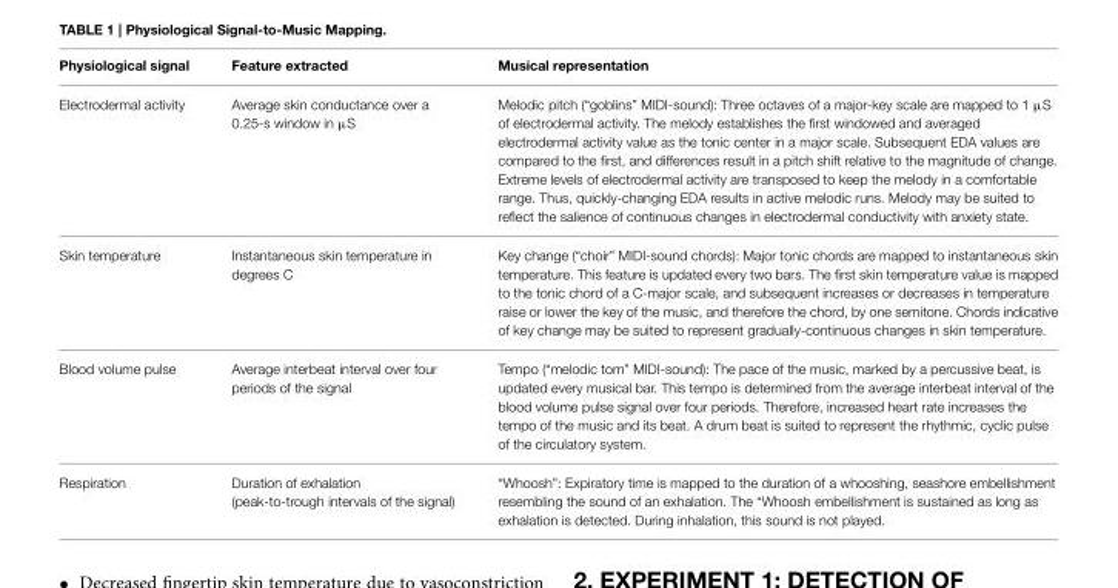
<table><thead><tr><td>Physiological signal</td><td>Feature extracted</td><td>Musical representation</td></tr></thead><tbody><tr><td>Electrodermal activity</td><td>Average skin conductance over a 0.25-s window in µS</td><td>Melodic pitch (“goblins” MIDI-sound): Three octaves of a major-key scale are mapped to 1 µS of electrodermal activity. The melody establishes the first windowed and averaged electrodermal activity value as the tonic center in a major scale. Subsequent EDA values are compared to the first, and differences result in a pitch shift relative to the magnitude of change. Extreme levels of electrodermal activity are transposed to keep the melody in a comfortable range. Thus, quickly-changing EDA results in active melodic runs. Melody may be suited to reflect the salience of continuous changes in electrodermal conductivity with anxiety state.</td></tr><tr><td>Skin temperature</td><td>Instantaneous skin temperature in degrees C</td><td>Key change (“choir” MIDI-sound chords): Major tonic chords are mapped to instantaneous skin temperature. This feature is updated every two bars. The first skin temperature value is mapped to the tonic chord of a C-major scale, and subsequent increases or decreases in temperature raise or lower the key of the music, and therefore the chord, by one semitone. Chords indicative of key change may be suited to represent gradually-continuous changes in skin temperature.</td></tr><tr><td>Blood volume pulse</td><td>Average interbeat interval over four periods of the signal</td><td>Tempo (“melodic tom” MIDI-sound): The pace of the music, marked by a percussive beat, is updated every musical bar. This tempo is determined from the average interbeat interval of the blood volume pulse signal over four periods. Therefore, increased heart rate increases the tempo of the music and its beat. A drum beat is suited to represent the rhythmic, cyclic pulse of the circulatory system.</td></tr><tr><td>Respiration</td><td>Duration of exhalation (peak-to-trough intervals of the signal)</td><td>“Whoosh”: Expiratory time is mapped to the duration of a whooshing, seashore embellishment resembling the sound of an exhalation. The “Whoosh embellishment is sustained as long as exhalation is detected. During inhalation, this sound is not played.</td></tr></tbody></table>